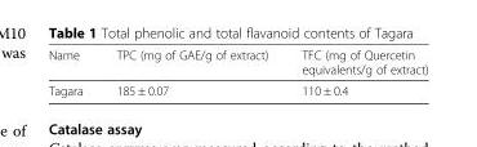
<table><thead><tr><td>Name</td><td>TPC (mg of GAE/g of extract)</td><td>TFC (mg of Quercetin equivalents/g of extract)</td></tr></thead><tbody><tr><td>Tagara</td><td>185 ± 0.07</td><td>110 ± 0.4</td></tr></tbody></table>